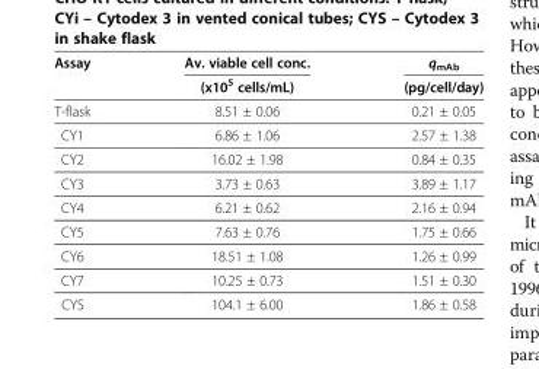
<table><thead><tr><td rowspan="2">Assay</td><td rowspan="2">Av. viable cell conc. (x10<sup>5</sup> cells/mL)</td><td rowspan="2">q<sub>mAb</sub> (pg/cell/day)</td></tr><tr></tr></thead><tbody><tr><td>T-flask</td><td>8.51 ± 0.06</td><td>0.21 ± 0.05</td></tr><tr><td>CY1</td><td>6.86 ± 1.06</td><td>2.57 ± 1.38</td></tr><tr><td>CY2</td><td>16.02 ± 1.98</td><td>0.84 ± 0.35</td></tr><tr><td>CY3</td><td>3.73 ± 0.63</td><td>3.89 ± 1.17</td></tr><tr><td>CY4</td><td>6.21 ± 0.62</td><td>2.16 ± 0.94</td></tr><tr><td>CY5</td><td>7.63 ± 0.76</td><td>1.75 ± 0.66</td></tr><tr><td>CY6</td><td>18.51 ± 1.08</td><td>1.26 ± 0.99</td></tr><tr><td>CY7</td><td>10.25 ± 0.73</td><td>1.51 ± 0.30</td></tr><tr><td>CYS</td><td>104.1 ± 6.00</td><td>1.86 ± 0.58</td></tr></tbody></table>